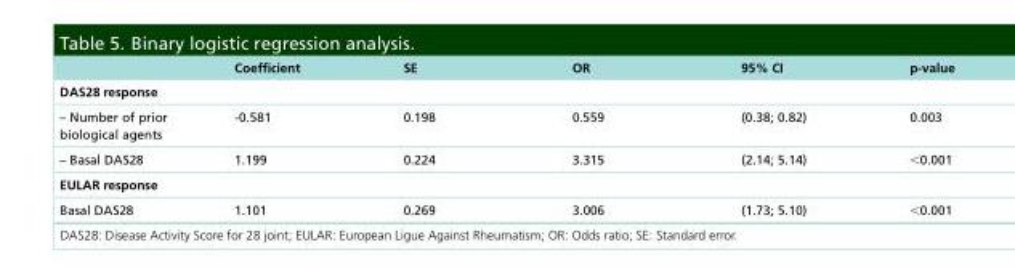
<table><thead><tr><td></td><td>Coefficient</td><td>SE</td><td>OR</td><td>95% CI</td><td>p-value</td></tr></thead><tbody><tr><td colspan="6">DAS28 response</td></tr><tr><td>– Number of prior biological agents</td><td>-0.581</td><td>0.198</td><td>0.559</td><td>(0.38; 0.82)</td><td>0.003</td></tr><tr><td>– Basal DAS28</td><td>1.199</td><td>0.224</td><td>3.315</td><td>(2.14; 5.14)</td><td>&lt;0.001</td></tr><tr><td colspan="6">EULAR response</td></tr><tr><td>Basal DAS28</td><td>1.101</td><td>0.269</td><td>3.006</td><td>(1.73; 5.10)</td><td>&lt;0.001</td></tr></tbody></table>